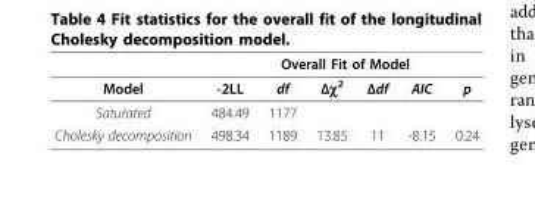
<table><thead><tr><td rowspan="2">Model</td><td colspan="6">Overall Fit of Model</td></tr><tr><td>-2LL</td><td>df</td><td>Δχ<sup>2</sup></td><td>Δdf</td><td>AIC</td><td>p</td></tr></thead><tbody><tr><td>Saturated</td><td>484.49</td><td>1177</td><td></td><td></td><td></td><td></td></tr><tr><td>Cholesky decomposition</td><td>498.34</td><td>1189</td><td>13.85</td><td>11</td><td>-8.15</td><td>0.24</td></tr></tbody></table>